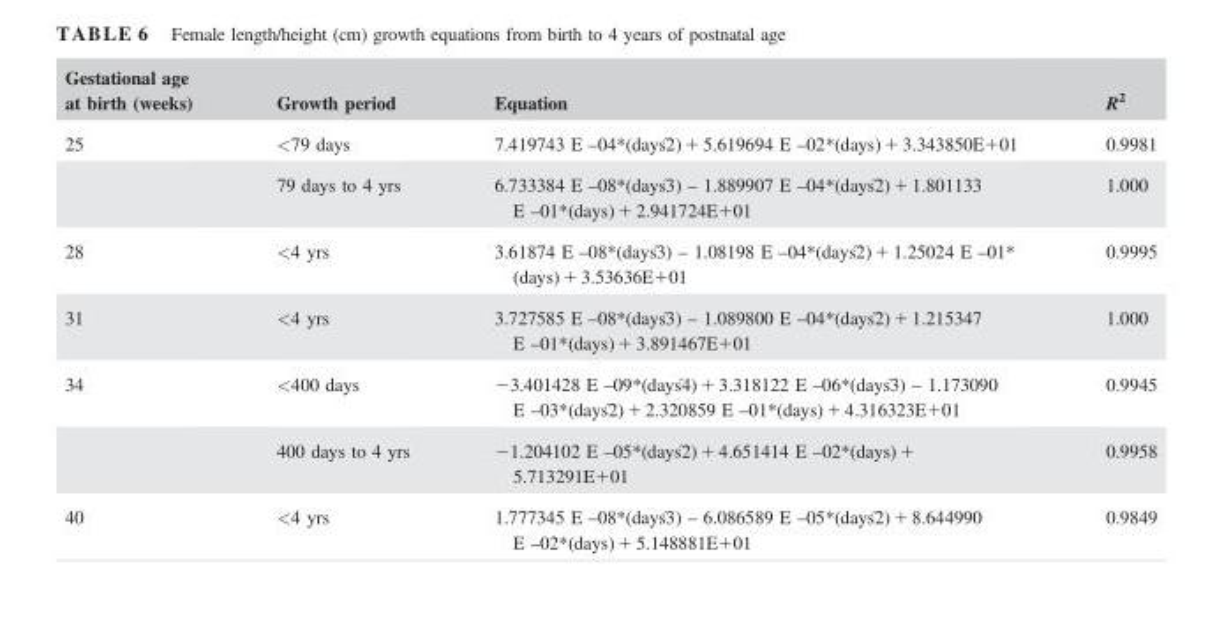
<table><thead><tr><td>Gestational age at birth (weeks)</td><td>Growth period</td><td>Equation</td><td>R<sup>2</sup></td></tr></thead><tbody><tr><td rowspan="2">25</td><td>&lt;79 days</td><td>7.419743 E –04*(days^2) + 5.619694 E –02*(days) + 3.343850E+01</td><td>0.9981</td></tr><tr><td>79 days to 4 yrs</td><td>6.733384 E –08*(days^3) – 1.889907 E –04*(days^2) + 1.801133 E –01*(days) + 2.941724E+01</td><td>1.000</td></tr><tr><td>28</td><td>&lt;4 yrs</td><td>3.61874 E –08*(days^3) – 1.08198 E –04*(days^2) + 1.25024 E –01* (days) + 3.53636E+01</td><td>0.9995</td></tr><tr><td>31</td><td>&lt;4 yrs</td><td>3.727585 E –08*(days^3) – 1.089800 E –04*(days^2) + 1.215347 E –01*(days) + 3.891467E+01</td><td>1.000</td></tr><tr><td rowspan="2">34</td><td>&lt;400 days</td><td>−3.401428 E –09*(days^4) + 3.318122 E –06*(days^3) – 1.173090 E –03*(days^2) + 2.320859 E –01*(days) + 4.316323E+01</td><td>0.9945</td></tr><tr><td>400 days to 4 yrs</td><td>−1.204102 E –05*(days^2) + 4.651414 E –02*(days) + 5.713291E+01</td><td>0.9958</td></tr><tr><td>40</td><td>&lt;4 yrs</td><td>1.777345 E –08*(days^3) – 6.086589 E –05*(days^2) + 8.644990 E –02*(days) + 5.148881E+01</td><td>0.9849</td></tr></tbody></table>